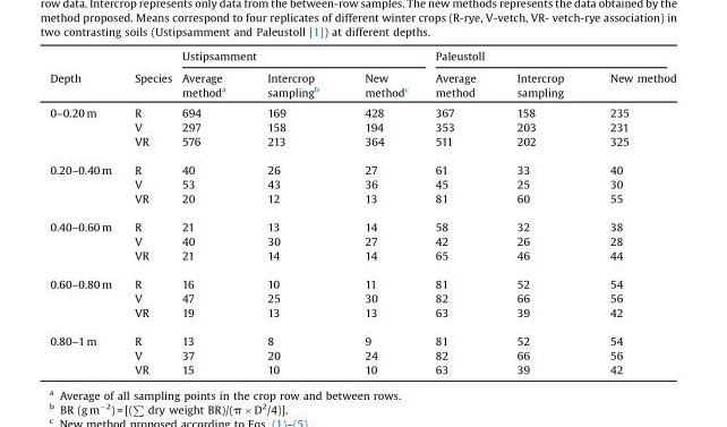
<table><thead><tr><td rowspan="2">Depth</td><td rowspan="2">Species</td><td colspan="3">Ustipsamment</td><td colspan="3">Paleustoll</td></tr><tr><td>Average method<sup>a</sup></td><td>Intercrop sampling<sup>b</sup></td><td>New method<sup>c</sup></td><td>Average method</td><td>Intercrop sampling</td><td>New method</td></tr></thead><tbody><tr><td rowspan="3">0–0.20 m</td><td>R</td><td>694</td><td>169</td><td>428</td><td>367</td><td>158</td><td>235</td></tr><tr><td>V</td><td>297</td><td>158</td><td>194</td><td>353</td><td>203</td><td>231</td></tr><tr><td>VR</td><td>576</td><td>213</td><td>364</td><td>511</td><td>202</td><td>325</td></tr><tr><td rowspan="3">0.20–0.40 m</td><td>R</td><td>40</td><td>26</td><td>27</td><td>61</td><td>33</td><td>40</td></tr><tr><td>V</td><td>53</td><td>43</td><td>36</td><td>45</td><td>25</td><td>30</td></tr><tr><td>VR</td><td>20</td><td>12</td><td>13</td><td>81</td><td>60</td><td>55</td></tr><tr><td rowspan="3">0.40–0.60 m</td><td>R</td><td>21</td><td>13</td><td>14</td><td>58</td><td>32</td><td>38</td></tr><tr><td>V</td><td>40</td><td>30</td><td>27</td><td>42</td><td>26</td><td>28</td></tr><tr><td>VR</td><td>21</td><td>14</td><td>14</td><td>65</td><td>46</td><td>44</td></tr><tr><td rowspan="3">0.60–0.80 m</td><td>R</td><td>16</td><td>10</td><td>11</td><td>81</td><td>52</td><td>54</td></tr><tr><td>V</td><td>47</td><td>25</td><td>30</td><td>82</td><td>66</td><td>56</td></tr><tr><td>VR</td><td>19</td><td>13</td><td>13</td><td>63</td><td>39</td><td>42</td></tr><tr><td rowspan="3">0.80–1 m</td><td>R</td><td>13</td><td>8</td><td>9</td><td>81</td><td>52</td><td>54</td></tr><tr><td>V</td><td>37</td><td>20</td><td>24</td><td>82</td><td>66</td><td>56</td></tr><tr><td>VR</td><td>15</td><td>10</td><td>10</td><td>63</td><td>39</td><td>42</td></tr></tbody></table>